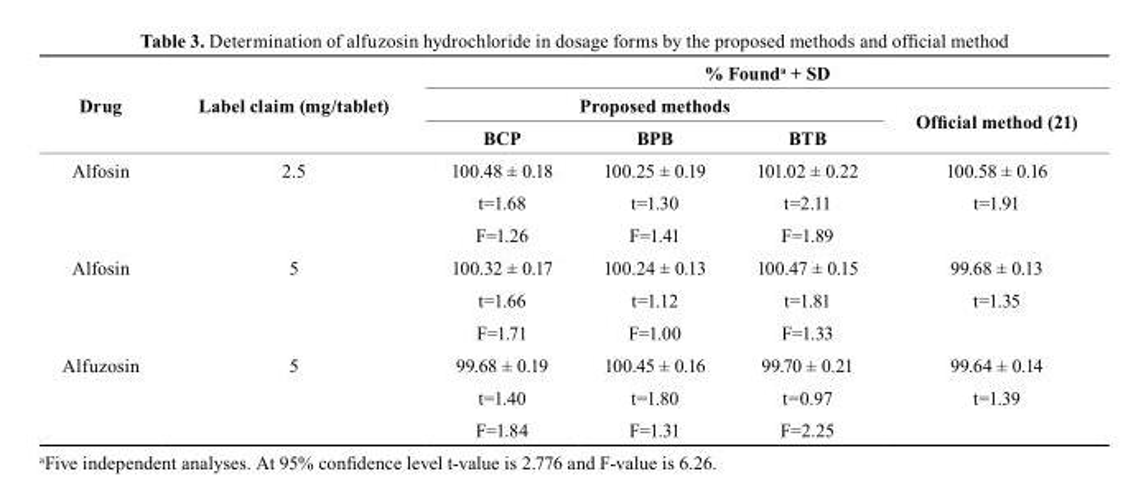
<table><thead><tr><td rowspan="3">Drug</td><td rowspan="3">label claim (mg/tablet)</td><td colspan="4">% Found<sup>a</sup> + SD</td></tr><tr><td colspan="3">Proposed methods</td><td rowspan="2">Official method (21)</td></tr><tr><td>bcP</td><td>bPb</td><td>btb</td></tr></thead><tbody><tr><td rowspan="3">Alfosin</td><td>2.5</td><td>100.48 ± 0.18</td><td>100.25 ± 0.19</td><td>101.02 ± 0.22</td><td>100.58 ± 0.16</td></tr><tr><td></td><td>t=1.68</td><td>t=1.30</td><td>t=2.11</td><td>t=1.91</td></tr><tr><td></td><td>F=1.26</td><td>F=1.41</td><td>F=1.89</td><td></td></tr><tr><td rowspan="3">Alfosin</td><td>5</td><td>100.32 ± 0.17</td><td>100.24 ± 0.13</td><td>100.47 ± 0.15</td><td>99.68 ± 0.13</td></tr><tr><td></td><td>t=1.66</td><td>t=1.12</td><td>t=1.81</td><td>t=1.35</td></tr><tr><td></td><td>F=1.71</td><td>F=1.00</td><td>F=1.33</td><td></td></tr><tr><td rowspan="3">Alfuzosin</td><td>5</td><td>99.68 ± 0.19</td><td>100.45 ± 0.16</td><td>99.70 ± 0.21</td><td>99.64 ± 0.14</td></tr><tr><td></td><td>t=1.40</td><td>t=1.80</td><td>t=0.97</td><td>t=1.39</td></tr><tr><td></td><td>F=1.84</td><td>F=1.31</td><td>F=2.25</td><td></td></tr></tbody></table>